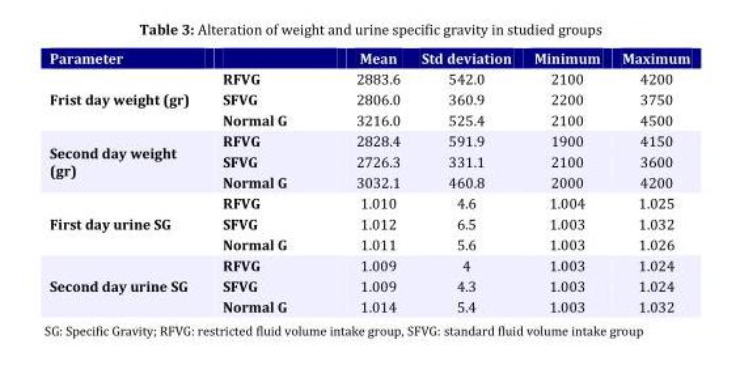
<table><thead><tr><td>Parameter</td><td></td><td>Mean</td><td>Std deviation</td><td>Minimum</td><td>Maximum</td></tr></thead><tbody><tr><td rowspan="3">Frist day weight (gr)</td><td>RFVG</td><td>2883.6</td><td>542.0</td><td>2100</td><td>4200</td></tr><tr><td>SFVG</td><td>2806.0</td><td>360.9</td><td>2200</td><td>3750</td></tr><tr><td>Normal G</td><td>3216.0</td><td>525.4</td><td>2100</td><td>4500</td></tr><tr><td rowspan="3">Second day weight (gr)</td><td>RFVG</td><td>2828.4</td><td>591.9</td><td>1900</td><td>4150</td></tr><tr><td>SFVG</td><td>2726.3</td><td>331.1</td><td>2100</td><td>3600</td></tr><tr><td>Normal G</td><td>3032.1</td><td>460.8</td><td>2000</td><td>4200</td></tr><tr><td rowspan="3">First day urine SG</td><td>RFVG</td><td>1.010</td><td>4.6</td><td>1.004</td><td>1.025</td></tr><tr><td>SFVG</td><td>1.012</td><td>6.5</td><td>1.003</td><td>1.032</td></tr><tr><td>Normal G</td><td>1.011</td><td>5.6</td><td>1.003</td><td>1.026</td></tr><tr><td rowspan="3">Second day urine SG</td><td>RFVG</td><td>1.009</td><td>4</td><td>1.003</td><td>1.024</td></tr><tr><td>SFVG</td><td>1.009</td><td>4.3</td><td>1.003</td><td>1.024</td></tr><tr><td>Normal G</td><td>1.014</td><td>5.4</td><td>1.003</td><td>1.032</td></tr></tbody></table>